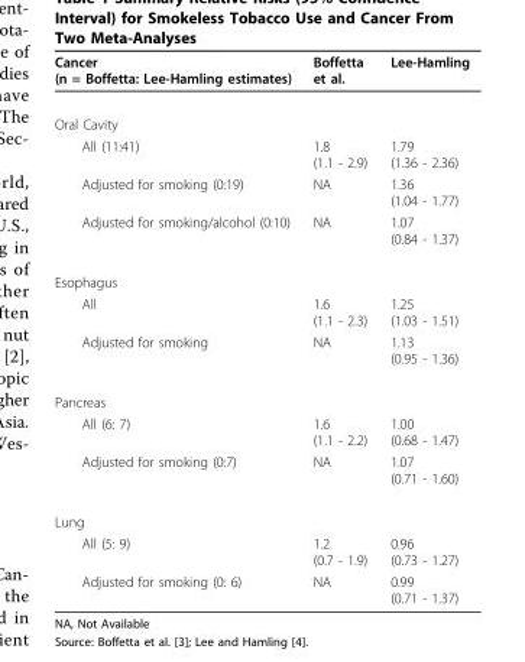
<table><thead><tr><td>Cancer (n = Boffetta: Lee-Hamling estimates)</td><td>Boffetta et al.</td><td>Lee-Hamling</td></tr></thead><tbody><tr><td colspan="3">Oral Cavity</td></tr><tr><td>All (11:41)</td><td>1.8 (1.1 - 2.9)</td><td>1.79 (1.36 - 2.36)</td></tr><tr><td>Adjusted for smoking (0:19)</td><td>NA</td><td>1.36 (1.04 - 1.77)</td></tr><tr><td>Adjusted for smoking/alcohol (0:10)</td><td>NA</td><td>1.07 (0.84 - 1.37)</td></tr><tr><td colspan="3">Esophagus</td></tr><tr><td>All</td><td>1.6 (1.1 - 2.3)</td><td>1.25 (1.03 - 1.51)</td></tr><tr><td>Adjusted for smoking</td><td>NA</td><td>1.13 (0.95 - 1.36)</td></tr><tr><td colspan="3">Pancreas</td></tr><tr><td>All (6: 7)</td><td>1.6 (1.1 - 2.2)</td><td>1.00 (0.68 - 1.47)</td></tr><tr><td>Adjusted for smoking (0:7)</td><td>NA</td><td>1.07 (0.71 - 1.60)</td></tr><tr><td colspan="3">Lung</td></tr><tr><td>All (5: 9)</td><td>1.2 (0.7 - 1.9)</td><td>0.96 (0.73 - 1.27)</td></tr><tr><td>Adjusted for smoking (0: 6)</td><td>NA</td><td>0.99 (0.71 - 1.37)</td></tr></tbody></table>